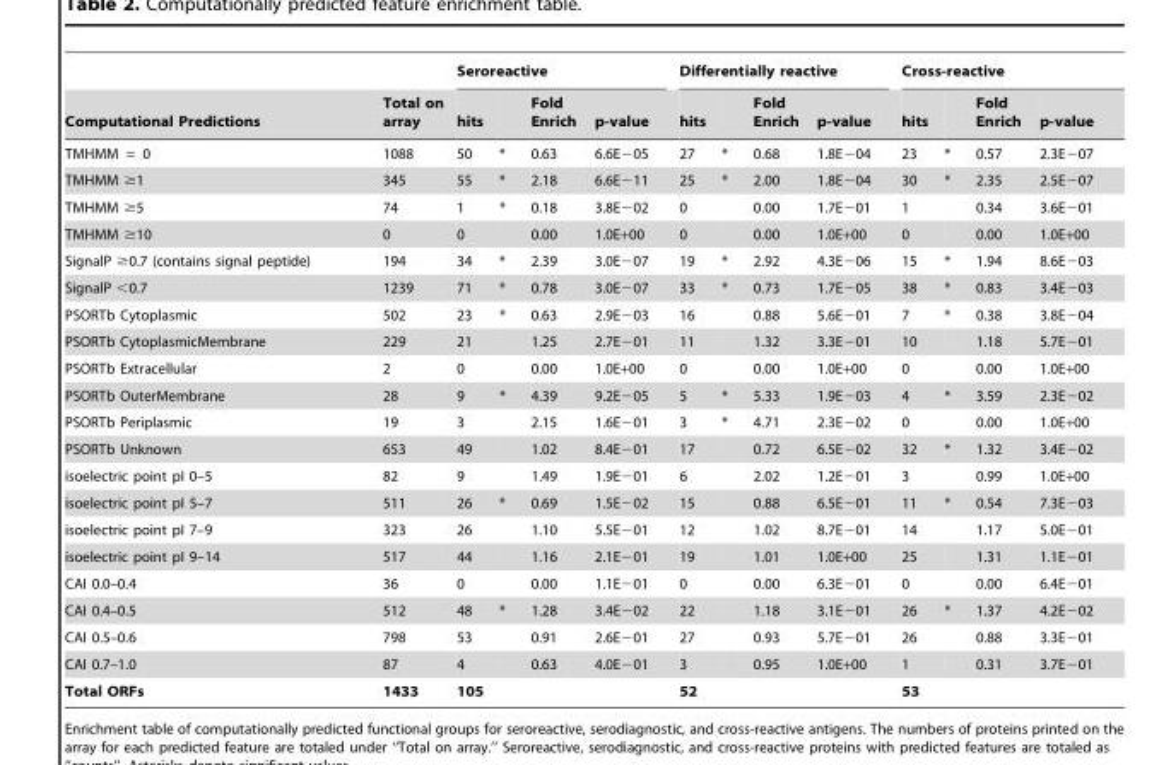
<table><thead><tr><td rowspan="2">Computational Predictions</td><td rowspan="2">Total on array</td><td colspan="4">Seroreactive</td><td colspan="4">Differentially reactive</td><td colspan="4">Cross-reactive</td></tr><tr><td>hits</td><td></td><td>Fold Enrich</td><td>p-value</td><td>hits</td><td></td><td>Fold Enrich</td><td>p-value</td><td>hits</td><td></td><td>Fold Enrich</td><td>p-value</td></tr></thead><tbody><tr><td>TMHMM = 0</td><td>1088</td><td>50</td><td>*</td><td>0.63</td><td>6.6E−05</td><td>27</td><td>*</td><td>0.68</td><td>1.8E−04</td><td>23</td><td>*</td><td>0.57</td><td>2.3E−07</td></tr><tr><td>TMHMM ≥1</td><td>345</td><td>55</td><td>*</td><td>2.18</td><td>6.6E−11</td><td>25</td><td>*</td><td>2.00</td><td>1.8E−04</td><td>30</td><td>*</td><td>2.35</td><td>2.5E−07</td></tr><tr><td>TMHMM ≥5</td><td>74</td><td>1</td><td>*</td><td>0.18</td><td>3.8E−02</td><td>0</td><td></td><td>0.00</td><td>1.7E−01</td><td>1</td><td></td><td>0.34</td><td>3.6E−01</td></tr><tr><td>TMHMM ≥10</td><td>0</td><td>0</td><td></td><td>0.00</td><td>1.0E+00</td><td>0</td><td></td><td>0.00</td><td>1.0E+00</td><td>0</td><td></td><td>0.00</td><td>1.0E+00</td></tr><tr><td>SignalP ≥0.7 (contains signal peptide)</td><td>194</td><td>34</td><td>*</td><td>2.39</td><td>3.0E−07</td><td>19</td><td>*</td><td>2.92</td><td>4.3E−06</td><td>15</td><td>*</td><td>1.94</td><td>8.6E−03</td></tr><tr><td>SignalP &lt;0.7</td><td>1239</td><td>71</td><td>*</td><td>0.78</td><td>3.0E−07</td><td>33</td><td>*</td><td>0.73</td><td>1.7E−05</td><td>38</td><td>*</td><td>0.83</td><td>3.4E−03</td></tr><tr><td>PSORTb Cytoplasmic</td><td>502</td><td>23</td><td>*</td><td>0.63</td><td>2.9E−03</td><td>16</td><td></td><td>0.88</td><td>5.6E−01</td><td>7</td><td>*</td><td>0.38</td><td>3.8E−04</td></tr><tr><td>PSORTb CytoplasmicMembrane</td><td>229</td><td>21</td><td></td><td>1.25</td><td>2.7E−01</td><td>11</td><td></td><td>1.32</td><td>3.3E−01</td><td>10</td><td></td><td>1.18</td><td>5.7E−01</td></tr><tr><td>PSORTb Extracellular</td><td>2</td><td>0</td><td></td><td>0.00</td><td>1.0E+00</td><td>0</td><td></td><td>0.00</td><td>1.0E+00</td><td>0</td><td></td><td>0.00</td><td>1.0E+00</td></tr><tr><td>PSORTb OuterMembrane</td><td>28</td><td>9</td><td>*</td><td>4.39</td><td>9.2E−05</td><td>5</td><td>*</td><td>5.33</td><td>1.9E−03</td><td>4</td><td>*</td><td>3.59</td><td>2.3E−02</td></tr><tr><td>PSORTb Periplasmic</td><td>19</td><td>3</td><td></td><td>2.15</td><td>1.6E−01</td><td>3</td><td>*</td><td>4.71</td><td>2.3E−02</td><td>0</td><td></td><td>0.00</td><td>1.0E+00</td></tr><tr><td>PSORTb Unknown</td><td>653</td><td>49</td><td></td><td>1.02</td><td>8.4E−01</td><td>17</td><td></td><td>0.72</td><td>6.5E−02</td><td>32</td><td>*</td><td>1.32</td><td>3.4E−02</td></tr><tr><td>isoelectric point pI 0–5</td><td>82</td><td>9</td><td></td><td>1.49</td><td>1.9E−01</td><td>6</td><td></td><td>2.02</td><td>1.2E−01</td><td>3</td><td></td><td>0.99</td><td>1.0E+00</td></tr><tr><td>isoelectric point pI 5–7</td><td>511</td><td>26</td><td>*</td><td>0.69</td><td>1.5E−02</td><td>15</td><td></td><td>0.88</td><td>6.5E−01</td><td>11</td><td>*</td><td>0.54</td><td>7.3E−03</td></tr><tr><td>isoelectric point pI 7–9</td><td>323</td><td>26</td><td></td><td>1.10</td><td>5.5E−01</td><td>12</td><td></td><td>1.02</td><td>8.7E−01</td><td>14</td><td></td><td>1.17</td><td>5.0E−01</td></tr><tr><td>isoelectric point pI 9–14</td><td>517</td><td>44</td><td></td><td>1.16</td><td>2.1E−01</td><td>19</td><td></td><td>1.01</td><td>1.0E+00</td><td>25</td><td></td><td>1.31</td><td>1.1E−01</td></tr><tr><td>CAI 0.0–0.4</td><td>36</td><td>0</td><td></td><td>0.00</td><td>1.1E−01</td><td>0</td><td></td><td>0.00</td><td>6.3E−01</td><td>0</td><td></td><td>0.00</td><td>6.4E−01</td></tr><tr><td>CAI 0.4–0.5</td><td>512</td><td>48</td><td>*</td><td>1.28</td><td>3.4E−02</td><td>22</td><td></td><td>1.18</td><td>3.1E−01</td><td>26</td><td>*</td><td>1.37</td><td>4.2E−02</td></tr><tr><td>CAI 0.5–0.6</td><td>798</td><td>53</td><td></td><td>0.91</td><td>2.6E−01</td><td>27</td><td></td><td>0.93</td><td>5.7E−01</td><td>26</td><td></td><td>0.88</td><td>3.3E−01</td></tr><tr><td>CAI 0.7–1.0</td><td>87</td><td>4</td><td></td><td>0.63</td><td>4.0E−01</td><td>3</td><td></td><td>0.95</td><td>1.0E+00</td><td>1</td><td></td><td>0.31</td><td>3.7E−01</td></tr><tr><td>Total ORFs</td><td>1433</td><td>105</td><td></td><td></td><td></td><td>52</td><td></td><td></td><td></td><td>53</td><td></td><td></td><td></td></tr></tbody></table>